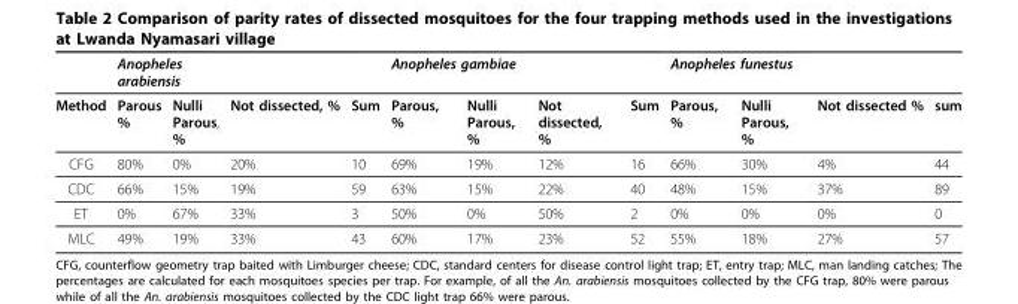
<table><thead><tr><td rowspan="2">Method</td><td colspan="2">Anopheles arabiensis</td><td rowspan="2">Not dissected, %</td><td rowspan="2">Sum</td><td colspan="2">Anopheles gambiae</td><td rowspan="2">Not dissected, %</td><td rowspan="2">Sum</td><td colspan="2">Anopheles funestus</td><td rowspan="2">Not dissected %</td><td rowspan="2">sum</td></tr><tr><td>Parous %</td><td>Nulli Parous, %</td><td>Parous, %</td><td>Nulli Parous, %</td><td>Parous, %</td><td>Nulli Parous, %</td></tr></thead><tbody><tr><td>CFG</td><td>80%</td><td>0%</td><td>20%</td><td>10</td><td>69%</td><td>19%</td><td>12%</td><td>16</td><td>66%</td><td>30%</td><td>4%</td><td>44</td></tr><tr><td>CDC</td><td>66%</td><td>15%</td><td>19%</td><td>59</td><td>63%</td><td>15%</td><td>22%</td><td>40</td><td>48%</td><td>15%</td><td>37%</td><td>89</td></tr><tr><td>ET</td><td>0%</td><td>67%</td><td>33%</td><td>3</td><td>50%</td><td>0%</td><td>50%</td><td>2</td><td>0%</td><td>0%</td><td>0%</td><td>0</td></tr><tr><td>MLC</td><td>49%</td><td>19%</td><td>33%</td><td>43</td><td>60%</td><td>17%</td><td>23%</td><td>52</td><td>55%</td><td>18%</td><td>27%</td><td>57</td></tr></tbody></table>